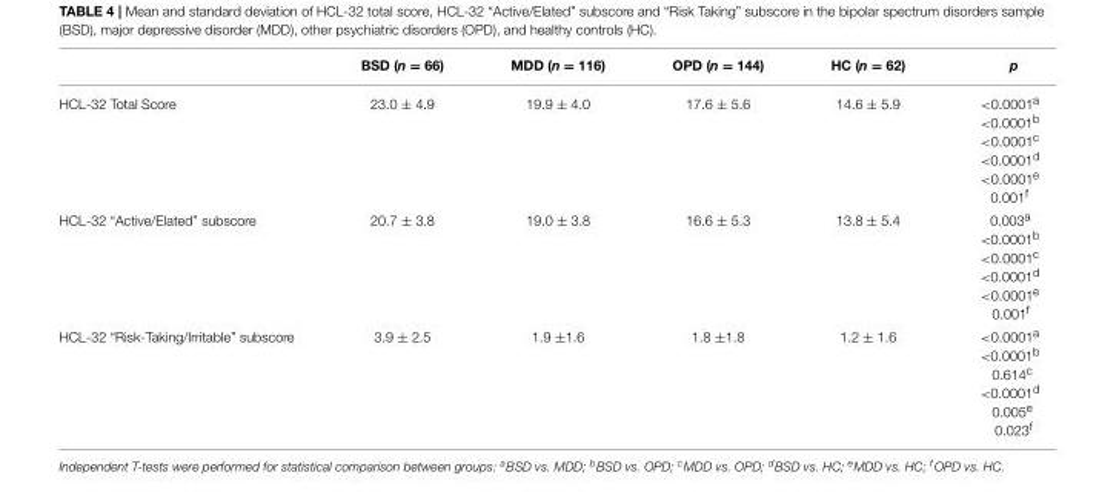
<table><thead><tr><td></td><td>BSD (n = 66)</td><td>MDD (n = 116)</td><td>OPD (n = 144)</td><td>HC (n = 62)</td><td>p</td></tr></thead><tbody><tr><td>HCL-32 Total Score</td><td>23.0 ± 4.9</td><td>19.9 ± 4.0</td><td>17.6 ± 5.6</td><td>14.6 ± 5.9</td><td>&lt;0.0001<sup>a</sup> &lt;0.0001<sup>b</sup> &lt;0.0001<sup>c</sup> &lt;0.0001<sup>d</sup> &lt;0.0001<sup>e</sup> 0.001<sup>f</sup></td></tr><tr><td>HCL-32 “Active/Elated” subscore</td><td>20.7 ± 3.8</td><td>19.0 ± 3.8</td><td>16.6 ± 5.3</td><td>13.8 ± 5.4</td><td>0.003<sup>a</sup> &lt;0.0001<sup>b</sup> &lt;0.0001<sup>c</sup> &lt;0.0001<sup>d</sup> &lt;0.0001<sup>e</sup> 0.001<sup>f</sup></td></tr><tr><td>HCL-32 “Risk-Taking/Irritable” subscore</td><td>3.9 ± 2.5</td><td>1.9 ±1.6</td><td>1.8 ±1.8</td><td>1.2 ± 1.6</td><td>&lt;0.0001<sup>a</sup> &lt;0.0001<sup>b</sup> 0.614<sup>c</sup> &lt;0.0001<sup>d</sup> 0.005<sup>e</sup> 0.023<sup>f</sup></td></tr></tbody></table>